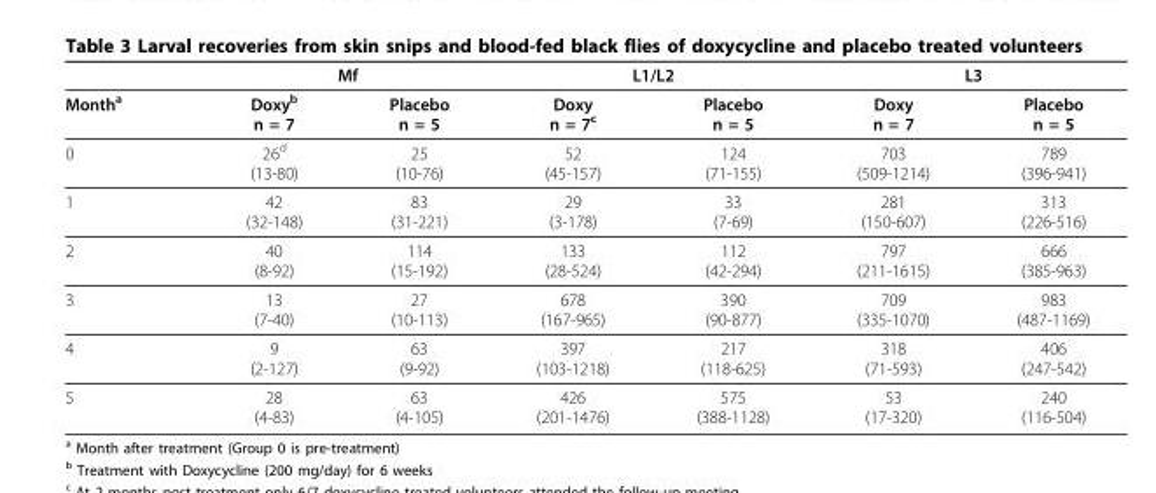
<table><thead><tr><td rowspan="2">Month<sup>a</sup></td><td colspan="2">Mf</td><td colspan="2">L1/L2</td><td colspan="2">L3</td></tr><tr><td>Doxy<sup>b</sup> n = 7</td><td>Placebo n = 5</td><td>Doxy n = 7<sup>c</sup></td><td>Placebo n = 5</td><td>Doxy n = 7</td><td>Placebo n = 5</td></tr></thead><tbody><tr><td>0</td><td>26<sup>d</sup> (13-80)</td><td>25 (10-76)</td><td>52 (45-157)</td><td>124 (71-155)</td><td>703 (509-1214)</td><td>789 (396-941)</td></tr><tr><td>1</td><td>42 (32-148)</td><td>83 (31-221)</td><td>29 (3-178)</td><td>33 (7-69)</td><td>281 (150-607)</td><td>313 (226-516)</td></tr><tr><td>2</td><td>40 (8-92)</td><td>114 (15-192)</td><td>133 (28-524)</td><td>112 (42-294)</td><td>797 (211-1615)</td><td>666 (385-963)</td></tr><tr><td>3</td><td>13 (7-40)</td><td>27 (10-113)</td><td>678 (167-965)</td><td>390 (90-877)</td><td>709 (335-1070)</td><td>983 (487-1169)</td></tr><tr><td>4</td><td>9 (2-127)</td><td>63 (9-92)</td><td>397 (103-1218)</td><td>217 (118-625)</td><td>318 (71-593)</td><td>406 (247-542)</td></tr><tr><td>5</td><td>28 (4-83)</td><td>63 (4-105)</td><td>426 (201-1476)</td><td>575 (388-1128)</td><td>53 (17-320)</td><td>240 (116-504)</td></tr></tbody></table>